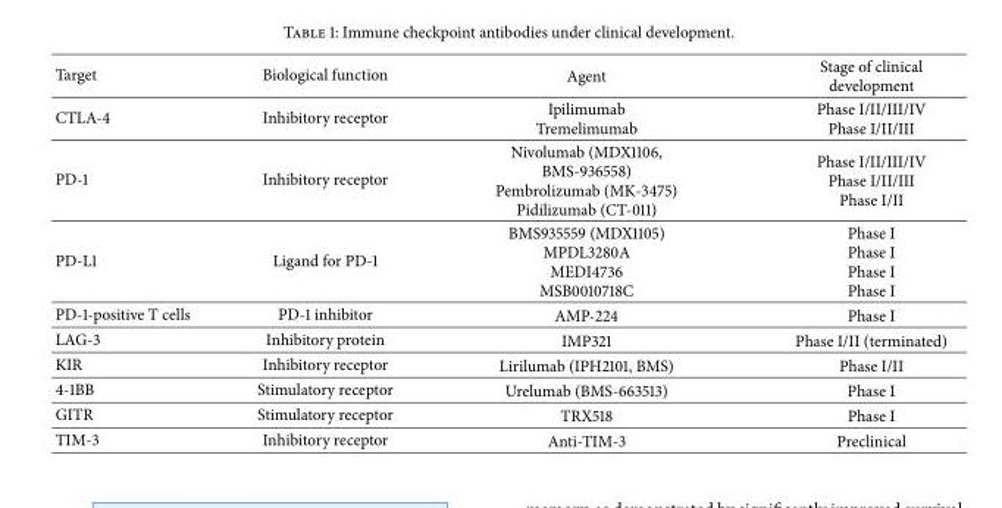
<table><thead><tr><td>Target</td><td>Biological function</td><td>Agent</td><td>Stage of clinical development</td></tr></thead><tbody><tr><td>CTLA-4</td><td>Inhibitory receptor</td><td>Ipilimumab Tremelimumab</td><td>Phase I/II/III/IV Phase I/II/III</td></tr><tr><td>PD-1</td><td>Inhibitory receptor</td><td>Nivolumab (MDX1106, BMS-936558) Pembrolizumab (MK-3475) Pidilizumab (CT-011)</td><td>Phase I/II/III/IV Phase I/II/III Phase I/II</td></tr><tr><td>PD-L1</td><td>Ligand for PD-1</td><td>BMS935559 (MDX1105) MPDL3280A MEDI4736 MSB0010718C</td><td>Phase I Phase I Phase I Phase I</td></tr><tr><td>PD-1-positive T cells</td><td>PD-1 inhibitor</td><td>AMP-224</td><td>Phase I</td></tr><tr><td>LAG-3</td><td>Inhibitory protein</td><td>IMP321</td><td>Phase I/II (terminated)</td></tr><tr><td>KIR</td><td>Inhibitory receptor</td><td>Lirilumab (IPH2101, BMS)</td><td>Phase I/II</td></tr><tr><td>4-1BB</td><td>Stimulatory receptor</td><td>Urelumab (BMS-663513)</td><td>Phase I</td></tr><tr><td>GITR</td><td>Stimulatory receptor</td><td>TRX518</td><td>Phase I</td></tr><tr><td>TIM-3</td><td>Inhibitory receptor</td><td>Anti-TIM-3</td><td>Preclinical</td></tr></tbody></table>